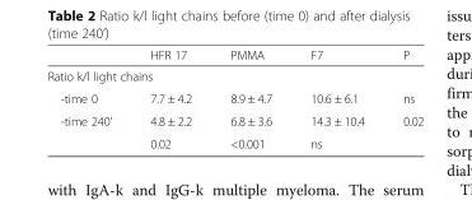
<table><thead><tr><td></td><td>HFR 17</td><td>PMMA</td><td>F7</td><td>P</td></tr></thead><tbody><tr><td colspan="5">Ratio k/l light chains</td></tr><tr><td>-time 0</td><td>7.7 ± 4.2</td><td>8.9 ± 4.7</td><td>10.6 ± 6.1</td><td>ns</td></tr><tr><td rowspan="2">-time 240’</td><td>4.8 ± 2.2</td><td>6.8 ± 3.6</td><td>14.3 ± 10.4</td><td>0.02</td></tr><tr><td>0.02</td><td>&lt;0.001</td><td>ns</td><td></td></tr></tbody></table>